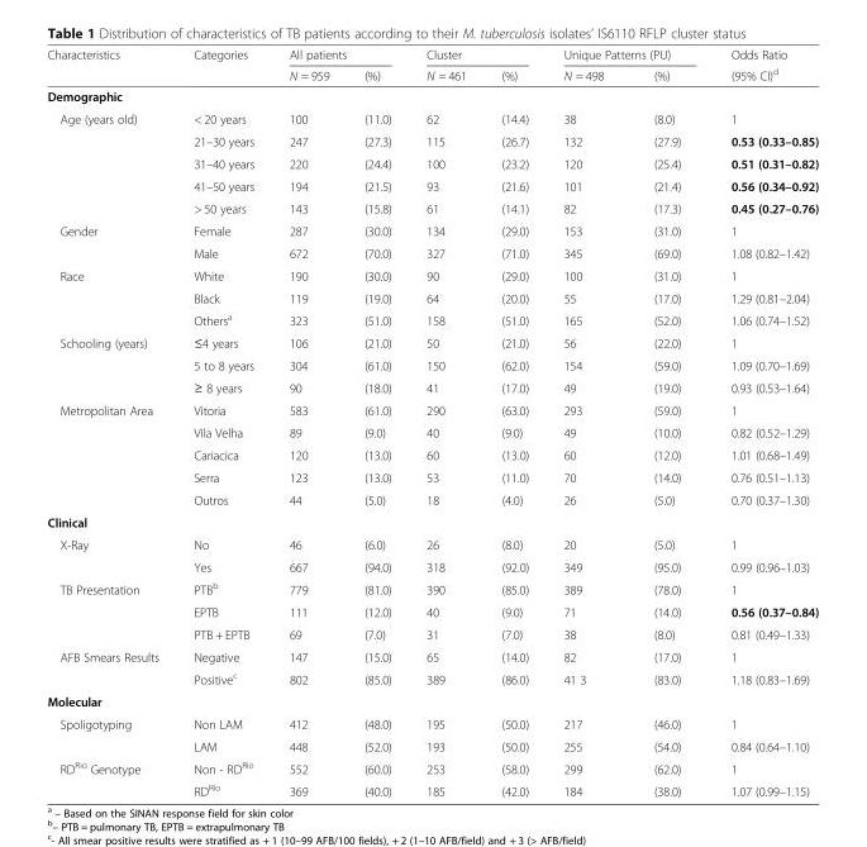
<table><thead><tr><td rowspan="2">Characteristics</td><td rowspan="2">Categories</td><td colspan="2">All patients</td><td colspan="2">Cluster</td><td colspan="2">Unique Patterns (PU)</td><td rowspan="2">Odds Ratio (95% CI)<sup>d</sup></td></tr><tr><td>N = 959</td><td>(%)</td><td>N = 461</td><td>(%)</td><td>N = 498</td><td>(%)</td></tr></thead><tbody><tr><td colspan="9">Demographic</td></tr><tr><td rowspan="5">Age (years old)</td><td>&lt; 20 years</td><td>100</td><td>(11.0)</td><td>62</td><td>(14.4)</td><td>38</td><td>(8.0)</td><td>1</td></tr><tr><td>21–30 years</td><td>247</td><td>(27.3)</td><td>115</td><td>(26.7)</td><td>132</td><td>(27.9)</td><td>0.53 (0.33–0.85)</td></tr><tr><td>31–40 years</td><td>220</td><td>(24.4)</td><td>100</td><td>(23.2)</td><td>120</td><td>(25.4)</td><td>0.51 (0.31–0.82)</td></tr><tr><td>41–50 years</td><td>194</td><td>(21.5)</td><td>93</td><td>(21.6)</td><td>101</td><td>(21.4)</td><td>0.56 (0.34–0.92)</td></tr><tr><td>&gt; 50 years</td><td>143</td><td>(15.8)</td><td>61</td><td>(14.1)</td><td>82</td><td>(17.3)</td><td>0.45 (0.27–0.76)</td></tr><tr><td rowspan="2">Gender</td><td>Female</td><td>287</td><td>(30.0)</td><td>134</td><td>(29.0)</td><td>153</td><td>(31.0)</td><td>1</td></tr><tr><td>Male</td><td>672</td><td>(70.0)</td><td>327</td><td>(71.0)</td><td>345</td><td>(69.0)</td><td>1.08 (0.82–1.42)</td></tr><tr><td rowspan="3">Race</td><td>White</td><td>190</td><td>(30.0)</td><td>90</td><td>(29.0)</td><td>100</td><td>(31.0)</td><td>1</td></tr><tr><td>Black</td><td>119</td><td>(19.0)</td><td>64</td><td>(20.0)</td><td>55</td><td>(17.0)</td><td>1.29 (0.81–2.04)</td></tr><tr><td>Others<sup>a</sup></td><td>323</td><td>(51.0)</td><td>158</td><td>(51.0)</td><td>165</td><td>(52.0)</td><td>1.06 (0.74–1.52)</td></tr><tr><td rowspan="3">Schooling (years)</td><td>≤4 years</td><td>106</td><td>(21.0)</td><td>50</td><td>(21.0)</td><td>56</td><td>(22.0)</td><td>1</td></tr><tr><td>5 to 8 years</td><td>304</td><td>(61.0)</td><td>150</td><td>(62.0)</td><td>154</td><td>(59.0)</td><td>1.09 (0.70–1.69)</td></tr><tr><td>≥ 8 years</td><td>90</td><td>(18.0)</td><td>41</td><td>(17.0)</td><td>49</td><td>(19.0)</td><td>0.93 (0.53–1.64)</td></tr><tr><td rowspan="5">Metropolitan Area</td><td>Vitoria</td><td>583</td><td>(61.0)</td><td>290</td><td>(63.0)</td><td>293</td><td>(59.0)</td><td>1</td></tr><tr><td>Vila Velha</td><td>89</td><td>(9.0)</td><td>40</td><td>(9.0)</td><td>49</td><td>(10.0)</td><td>0.82 (0.52–1.29)</td></tr><tr><td>Cariacica</td><td>120</td><td>(13.0)</td><td>60</td><td>(13.0)</td><td>60</td><td>(12.0)</td><td>1.01 (0.68–1.49)</td></tr><tr><td>Serra</td><td>123</td><td>(13.0)</td><td>53</td><td>(11.0)</td><td>70</td><td>(14.0)</td><td>0.76 (0.51–1.13)</td></tr><tr><td>Outros</td><td>44</td><td>(5.0)</td><td>18</td><td>(4.0)</td><td>26</td><td>(5.0)</td><td>0.70 (0.37–1.30)</td></tr><tr><td colspan="9">Clinical</td></tr><tr><td rowspan="2">X-Ray</td><td>No</td><td>46</td><td>(6.0)</td><td>26</td><td>(8.0)</td><td>20</td><td>(5.0)</td><td>1</td></tr><tr><td>Yes</td><td>667</td><td>(94.0)</td><td>318</td><td>(92.0)</td><td>349</td><td>(95.0)</td><td>0.99 (0.96–1.03)</td></tr><tr><td rowspan="3">TB Presentation</td><td>PTB<sup>b</sup></td><td>779</td><td>(81.0)</td><td>390</td><td>(85.0)</td><td>389</td><td>(78.0)</td><td>1</td></tr><tr><td>EPTB</td><td>111</td><td>(12.0)</td><td>40</td><td>(9.0)</td><td>71</td><td>(14.0)</td><td>0.56 (0.37–0.84)</td></tr><tr><td>PTB + EPTB</td><td>69</td><td>(7.0)</td><td>31</td><td>(7.0)</td><td>38</td><td>(8.0)</td><td>0.81 (0.49–1.33)</td></tr><tr><td rowspan="2">AFB Smears Results</td><td>Negative</td><td>147</td><td>(15.0)</td><td>65</td><td>(14.0)</td><td>82</td><td>(17.0)</td><td>1</td></tr><tr><td>Positive<sup>c</sup></td><td>802</td><td>(85.0)</td><td>389</td><td>(86.0)</td><td>41 3</td><td>(83.0)</td><td>1.18 (0.83–1.69)</td></tr><tr><td colspan="9">Molecular</td></tr><tr><td rowspan="2">Spoligotyping</td><td>Non LAM</td><td>412</td><td>(48.0)</td><td>195</td><td>(50.0)</td><td>217</td><td>(46.0)</td><td>1</td></tr><tr><td>LAM</td><td>448</td><td>(52.0)</td><td>193</td><td>(50.0)</td><td>255</td><td>(54.0)</td><td>0.84 (0.64–1.10)</td></tr><tr><td rowspan="2">RD<sup>Rio</sup> Genotype</td><td>Non - RD<sup>Rio</sup></td><td>552</td><td>(60.0)</td><td>253</td><td>(58.0)</td><td>299</td><td>(62.0)</td><td>1</td></tr><tr><td>RD<sup>Rio</sup></td><td>369</td><td>(40.0)</td><td>185</td><td>(42.0)</td><td>184</td><td>(38.0)</td><td>1.07 (0.99–1.15)</td></tr></tbody></table>